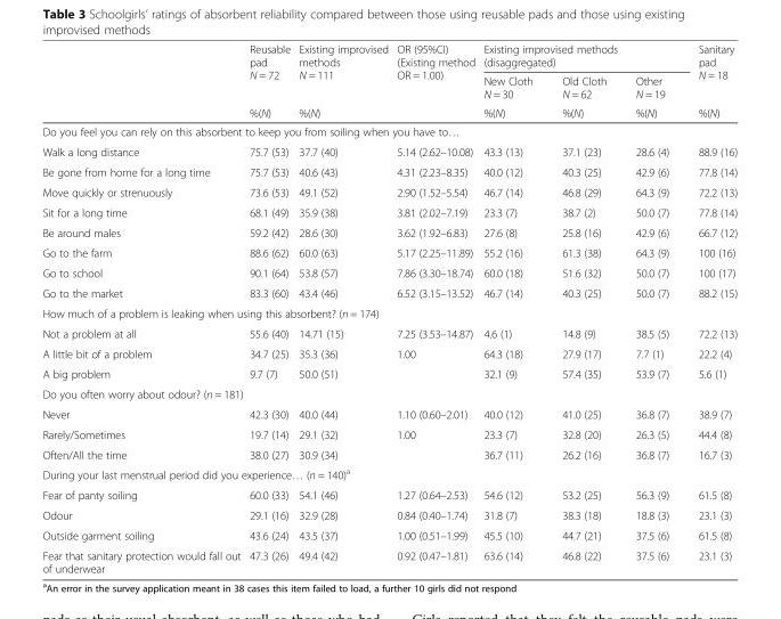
<table><thead><tr><td rowspan="3"></td><td rowspan="3">Reusable pad N = 72 %(N)</td><td rowspan="3">Existing improvised methods N = 111 %(N)</td><td rowspan="3">OR (95%CI) (Existing method OR = 1.00)</td><td colspan="3">Existing improvised methods (disaggregated)</td><td rowspan="3">Sanitary pad N = 18 %(N)</td></tr><tr><td rowspan="2">New Cloth N = 30 %(N)</td><td rowspan="2">Old Cloth N = 62 %(N)</td><td rowspan="2">Other N = 19 %(N)</td></tr><tr></tr></thead><tbody><tr><td colspan="8">Do you feel you can rely on this absorbent to keep you from soiling when you have to…</td></tr><tr><td>Walk a long distance</td><td>75.7 (53)</td><td>37.7 (40)</td><td>5.14 (2.62–10.08)</td><td>43.3 (13)</td><td>37.1 (23)</td><td>28.6 (4)</td><td>88.9 (16)</td></tr><tr><td>Be gone from home for a long time</td><td>75.7 (53)</td><td>40.6 (43)</td><td>4.31 (2.23–8.35)</td><td>40.0 (12)</td><td>40.3 (25)</td><td>42.9 (6)</td><td>77.8 (14)</td></tr><tr><td>Move quickly or strenuously</td><td>73.6 (53)</td><td>49.1 (52)</td><td>2.90 (1.52–5.54)</td><td>46.7 (14)</td><td>46.8 (29)</td><td>64.3 (9)</td><td>72.2 (13)</td></tr><tr><td>Sit for a long time</td><td>68.1 (49)</td><td>35.9 (38)</td><td>3.81 (2.02–7.19)</td><td>23.3 (7)</td><td>38.7 (2)</td><td>50.0 (7)</td><td>77.8 (14)</td></tr><tr><td>Be around males</td><td>59.2 (42)</td><td>28.6 (30)</td><td>3.62 (1.92–6.83)</td><td>27.6 (8)</td><td>25.8 (16)</td><td>42.9 (6)</td><td>66.7 (12)</td></tr><tr><td>Go to the farm</td><td>88.6 (62)</td><td>60.0 (63)</td><td>5.17 (2.25–11.89)</td><td>55.2 (16)</td><td>61.3 (38)</td><td>64.3 (9)</td><td>100 (16)</td></tr><tr><td>Go to school</td><td>90.1 (64)</td><td>53.8 (57)</td><td>7.86 (3.30–18.74)</td><td>60.0 (18)</td><td>51.6 (32)</td><td>50.0 (7)</td><td>100 (17)</td></tr><tr><td>Go to the market</td><td>83.3 (60)</td><td>43.4 (46)</td><td>6.52 (3.15–13.52)</td><td>46.7 (14)</td><td>40.3 (25)</td><td>50.0 (7)</td><td>88.2 (15)</td></tr><tr><td colspan="8">How much of a problem is leaking when using this absorbent? (n = 174)</td></tr><tr><td>Not a problem at all</td><td>55.6 (40)</td><td>14.71 (15)</td><td>7.25 (3.53–14.87)</td><td>4.6 (1)</td><td>14.8 (9)</td><td>38.5 (5)</td><td>72.2 (13)</td></tr><tr><td>A little bit of a problem</td><td>34.7 (25)</td><td>35.3 (36)</td><td rowspan="2">1.00</td><td>64.3 (18)</td><td>27.9 (17)</td><td>7.7 (1)</td><td>22.2 (4)</td></tr><tr><td>A big problem</td><td>9.7 (7)</td><td>50.0 (51)</td><td>32.1 (9)</td><td>57.4 (35)</td><td>53.9 (7)</td><td>5.6 (1)</td></tr><tr><td colspan="8">Do you often worry about odour? (n = 181)</td></tr><tr><td>Never</td><td>42.3 (30)</td><td>40.0 (44)</td><td>1.10 (0.60–2.01)</td><td>40.0 (12)</td><td>41.0 (25)</td><td>36.8 (7)</td><td>38.9 (7)</td></tr><tr><td>Rarely/Sometimes</td><td>19.7 (14)</td><td>29.1 (32)</td><td rowspan="2">1.00</td><td>23.3 (7)</td><td>32.8 (20)</td><td>26.3 (5)</td><td>44.4 (8)</td></tr><tr><td>Often/All the time</td><td>38.0 (27)</td><td>30.9 (34)</td><td>36.7 (11)</td><td>26.2 (16)</td><td>36.8 (7)</td><td>16.7 (3)</td></tr><tr><td colspan="8">During your last menstrual period did you experience… (n = 140)<sup>a</sup></td></tr><tr><td>Fear of panty soiling</td><td>60.0 (33)</td><td>54.1 (46)</td><td>1.27 (0.64–2.53)</td><td>54.6 (12)</td><td>53.2 (25)</td><td>56.3 (9)</td><td>61.5 (8)</td></tr><tr><td>Odour</td><td>29.1 (16)</td><td>32.9 (28)</td><td>0.84 (0.40–1.74)</td><td>31.8 (7)</td><td>38.3 (18)</td><td>18.8 (3)</td><td>23.1 (3)</td></tr><tr><td>Outside garment soiling</td><td>43.6 (24)</td><td>43.5 (37)</td><td>1.00 (0.51–1.99)</td><td>45.5 (10)</td><td>44.7 (21)</td><td>37.5 (6)</td><td>61.5 (8)</td></tr><tr><td>Fear that sanitary protection would fall out of underwear</td><td>47.3 (26)</td><td>49.4 (42)</td><td>0.92 (0.47–1.81)</td><td>63.6 (14)</td><td>46.8 (22)</td><td>37.5 (6)</td><td>23.1 (3)</td></tr></tbody></table>